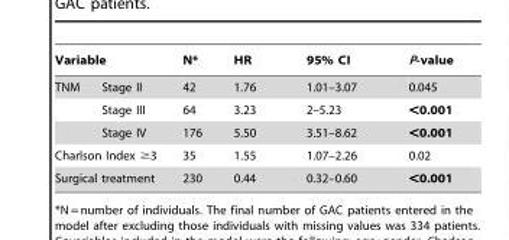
<table><thead><tr><td colspan="2">Variable</td><td rowspan="2">N* 42</td><td rowspan="2">HR 1.76</td><td rowspan="2">95% CI 1.01–3.07</td><td rowspan="2">P-value 0.045</td></tr><tr><td>TNM</td><td>Stage II</td></tr></thead><tbody><tr><td></td><td>Stage III</td><td>64</td><td>3.23</td><td>2–5.23</td><td>&lt;0.001</td></tr><tr><td></td><td>Stage IV</td><td>176</td><td>5.50</td><td>3.51–8.62</td><td>&lt;0.001</td></tr><tr><td colspan="2">Charlson Index ≥3</td><td>35</td><td>1.55</td><td>1.07–2.26</td><td>0.02</td></tr><tr><td colspan="2">Surgical treatment</td><td>230</td><td>0.44</td><td>0.32–0.60</td><td>&lt;0.001</td></tr></tbody></table>